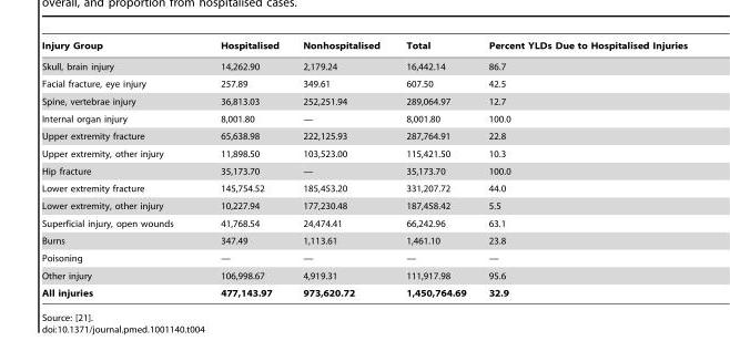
<table><thead><tr><td>Injury Group</td><td>Hospitalised</td><td>Nonhospitalised</td><td>Total</td><td>Percent YLDs Due to Hospitalised Injuries</td></tr></thead><tbody><tr><td>Skull, brain injury</td><td>14,262.90</td><td>2,179.24</td><td>16,442.14</td><td>86.7</td></tr><tr><td>Facial fracture, eye injury</td><td>257.89</td><td>349.61</td><td>607.50</td><td>42.5</td></tr><tr><td>Spine, vertebrae injury</td><td>36,813.03</td><td>252,251.94</td><td>289,064.97</td><td>12.7</td></tr><tr><td>Internal organ injury</td><td>8,001.80</td><td>—</td><td>8,001.80</td><td>100.0</td></tr><tr><td>Upper extremity fracture</td><td>65,638.98</td><td>222,125.93</td><td>287,764.91</td><td>22.8</td></tr><tr><td>Upper extremity, other injury</td><td>11,898.50</td><td>103,523.00</td><td>115,421.50</td><td>10.3</td></tr><tr><td>Hip fracture</td><td>35,173.70</td><td>—</td><td>35,173.70</td><td>100.0</td></tr><tr><td>Lower extremity fracture</td><td>145,754.52</td><td>185,453.20</td><td>331,207.72</td><td>44.0</td></tr><tr><td>Lower extremity, other injury</td><td>10,227.94</td><td>177,230.48</td><td>187,458.42</td><td>5.5</td></tr><tr><td>Superficial injury, open wounds</td><td>41,768.54</td><td>24,474.41</td><td>66,242.96</td><td>63.1</td></tr><tr><td>Burns</td><td>347.49</td><td>1,113.61</td><td>1,461.10</td><td>23.8</td></tr><tr><td>Poisoning</td><td>—</td><td>—</td><td>—</td><td>—</td></tr><tr><td>Other injury</td><td>106,998.67</td><td>4,919.31</td><td>111,917.98</td><td>95.6</td></tr><tr><td>All injuries</td><td>477,143.97</td><td>973,620.72</td><td>1,450,764.69</td><td>32.9</td></tr></tbody></table>